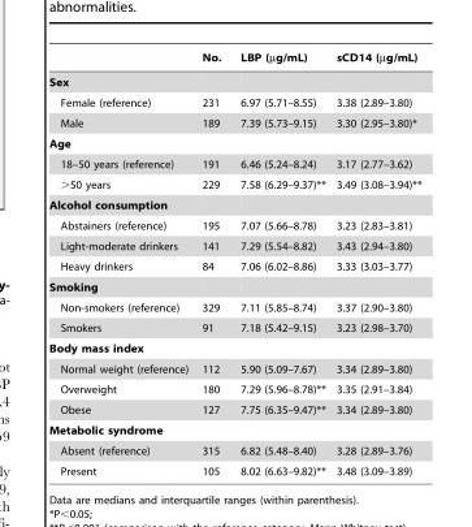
<table><thead><tr><td></td><td>No.</td><td>LBP (µg/mL)</td><td>sCD14 (µg/mL)</td></tr></thead><tbody><tr><td colspan="4">Sex</td></tr><tr><td>Female (reference)</td><td>231</td><td>6.97 (5.71–8.55)</td><td>3.38 (2.89–3.80)</td></tr><tr><td>Male</td><td>189</td><td>7.39 (5.73–9.15)</td><td>3.30 (2.95–3.80)*</td></tr><tr><td colspan="4">Age</td></tr><tr><td>18–50 years (reference)</td><td>191</td><td>6.46 (5.24–8.24)</td><td>3.17 (2.77–3.62)</td></tr><tr><td>&gt;50 years</td><td>229</td><td>7.58 (6.29–9.37)**</td><td>3.49 (3.08–3.94)**</td></tr><tr><td colspan="4">Alcohol consumption</td></tr><tr><td>Abstainers (reference)</td><td>195</td><td>7.07 (5.66–8.78)</td><td>3.23 (2.83–3.81)</td></tr><tr><td>Light-moderate drinkers</td><td>141</td><td>7.29 (5.54–8.82)</td><td>3.43 (2.94–3.80)</td></tr><tr><td>Heavy drinkers</td><td>84</td><td>7.06 (6.02–8.86)</td><td>3.33 (3.03–3.77)</td></tr><tr><td colspan="4">Smoking</td></tr><tr><td>Non-smokers (reference)</td><td>329</td><td>7.11 (5.85–8.74)</td><td>3.37 (2.90–3.80)</td></tr><tr><td>Smokers</td><td>91</td><td>7.18 (5.42–9.15)</td><td>3.23 (2.98–3.70)</td></tr><tr><td colspan="4">Body mass index</td></tr><tr><td>Normal weight (reference)</td><td>112</td><td>5.90 (5.09–7.67)</td><td>3.34 (2.89–3.80)</td></tr><tr><td>Overweight</td><td>180</td><td>7.29 (5.96–8.78)**</td><td>3.35 (2.91–3.84)</td></tr><tr><td>Obese</td><td>127</td><td>7.75 (6.35–9.47)**</td><td>3.34 (2.89–3.80)</td></tr><tr><td colspan="4">Metabolic syndrome</td></tr><tr><td>Absent (reference)</td><td>315</td><td>6.82 (5.48–8.40)</td><td>3.28 (2.89–3.76)</td></tr><tr><td>Present</td><td>105</td><td>8.02 (6.63–9.82)**</td><td>3.48 (3.09–3.89)</td></tr></tbody></table>